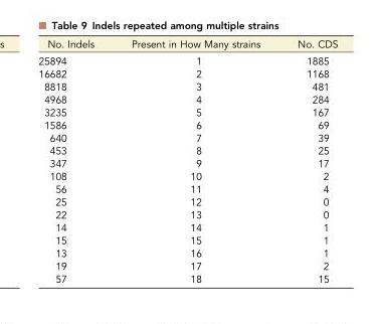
<table><thead><tr><td>No. Indels</td><td>Present in How Many strains</td><td>No. CDS</td></tr></thead><tbody><tr><td>25894</td><td>1</td><td>1885</td></tr><tr><td>16682</td><td>2</td><td>1168</td></tr><tr><td>8818</td><td>3</td><td>481</td></tr><tr><td>4968</td><td>4</td><td>284</td></tr><tr><td>3235</td><td>5</td><td>167</td></tr><tr><td>1586</td><td>6</td><td>69</td></tr><tr><td>640</td><td>7</td><td>39</td></tr><tr><td>453</td><td>8</td><td>25</td></tr><tr><td>347</td><td>9</td><td>17</td></tr><tr><td>108</td><td>10</td><td>2</td></tr><tr><td>56</td><td>11</td><td>4</td></tr><tr><td>25</td><td>12</td><td>0</td></tr><tr><td>22</td><td>13</td><td>0</td></tr><tr><td>14</td><td>14</td><td>1</td></tr><tr><td>15</td><td>15</td><td>1</td></tr><tr><td>13</td><td>16</td><td>1</td></tr><tr><td>19</td><td>17</td><td>2</td></tr><tr><td>57</td><td>18</td><td>15</td></tr></tbody></table>